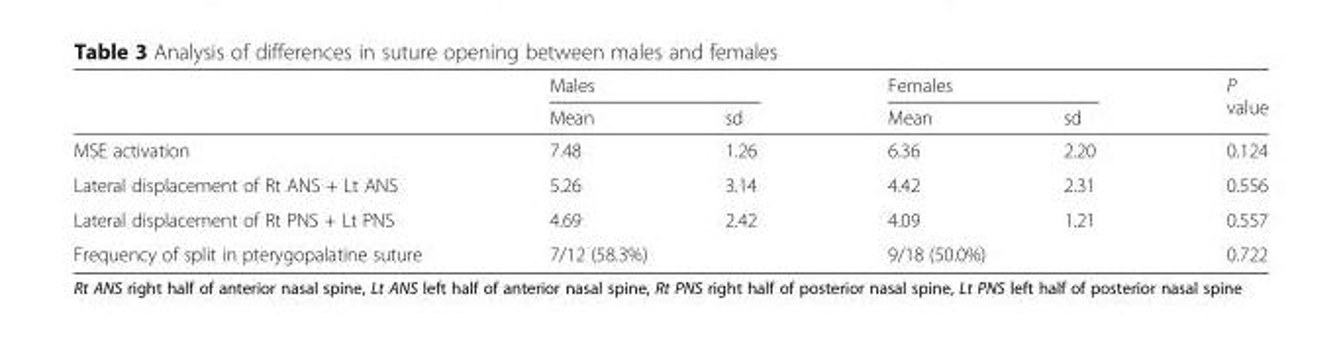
<table><thead><tr><td rowspan="2"></td><td colspan="2">Males</td><td colspan="2">Females</td><td rowspan="2">P value</td></tr><tr><td>Mean</td><td>sd</td><td>Mean</td><td>sd</td></tr></thead><tbody><tr><td>MSE activation</td><td>7.48</td><td>1.26</td><td>6.36</td><td>2.20</td><td>0.124</td></tr><tr><td>Lateral displacement of Rt ANS + Lt ANS</td><td>5.26</td><td>3.14</td><td>4.42</td><td>2.31</td><td>0.556</td></tr><tr><td>Lateral displacement of Rt PNS + Lt PNS</td><td>4.69</td><td>2.42</td><td>4.09</td><td>1.21</td><td>0.557</td></tr><tr><td>Frequency of split in pterygopalatine suture</td><td colspan="2">7/12 (58.3%)</td><td colspan="2">9/18 (50.0%)</td><td>0.722</td></tr></tbody></table>